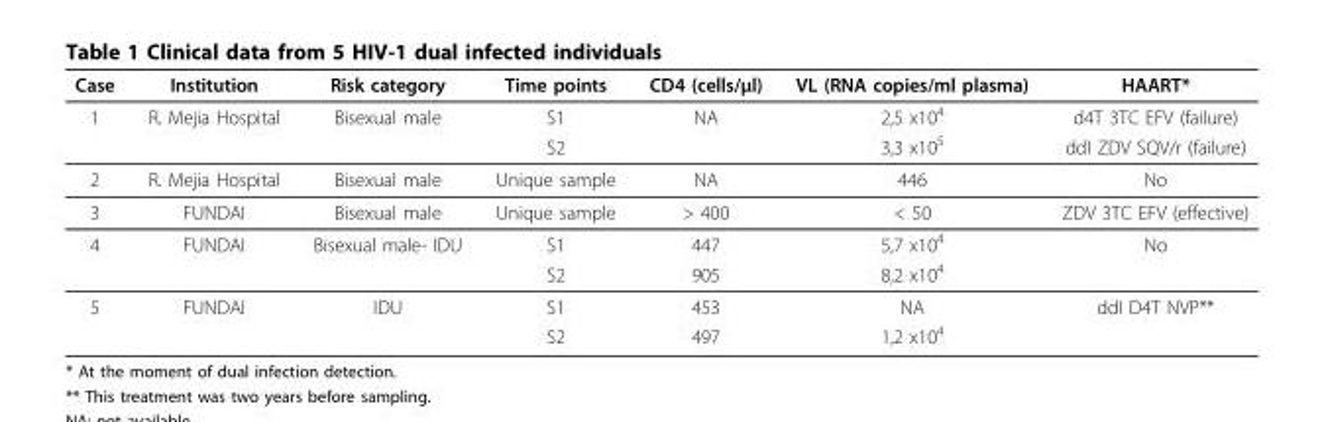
<table><thead><tr><td>Case</td><td>Institution</td><td>Risk category</td><td>Time points</td><td>CD4 (cells/μl)</td><td>VL (RNA copies/ml plasma)</td><td>HAART*</td></tr></thead><tbody><tr><td rowspan="2">1</td><td>R. Mejia Hospital</td><td>Bisexual male</td><td>S1</td><td>NA</td><td>2,5 x10<sup>4</sup></td><td>d4T 3TC EFV (failure)</td></tr><tr><td></td><td></td><td>S2</td><td></td><td>3,3 x10<sup>5</sup></td><td>ddI ZDV SQV/r (failure)</td></tr><tr><td>2</td><td>R. Mejia Hospital</td><td>Bisexual male</td><td>Unique sample</td><td>NA</td><td>446</td><td>No</td></tr><tr><td>3</td><td>FUNDAI</td><td>Bisexual male</td><td>Unique sample</td><td>&gt; 400</td><td>&lt; 50</td><td>ZDV 3TC EFV (effective)</td></tr><tr><td rowspan="2">4</td><td>FUNDAI</td><td>Bisexual male- IDU</td><td>S1</td><td>447</td><td>5,7 x10<sup>4</sup></td><td>No</td></tr><tr><td></td><td></td><td>S2</td><td>905</td><td>8,2 x10<sup>4</sup></td><td></td></tr><tr><td rowspan="2">5</td><td>FUNDAI</td><td>IDU</td><td>S1</td><td>453</td><td>NA</td><td>ddI D4T NVP**</td></tr><tr><td></td><td></td><td>S2</td><td>497</td><td>1,2 x10<sup>4</sup></td><td></td></tr></tbody></table>